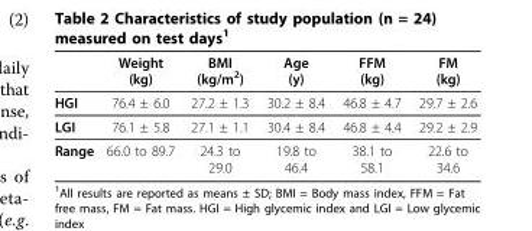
<table><thead><tr><td></td><td>Weight (kg)</td><td>BMI (kg/m<sup>2</sup>)</td><td>Age (y)</td><td>FFM (kg)</td><td>FM (kg)</td></tr></thead><tbody><tr><td>HGI</td><td>76.4 ± 6.0</td><td>27.2 ± 1.3</td><td>30.2 ± 8.4</td><td>46.8 ± 4.7</td><td>29.7 ± 2.6</td></tr><tr><td>LGI</td><td>76.1 ± 5.8</td><td>27.1 ± 1.1</td><td>30.4 ± 8.4</td><td>46.8 ± 4.4</td><td>29.2 ± 2.9</td></tr><tr><td>Range</td><td>66.0 to 89.7</td><td>24.3 to 29.0</td><td>19.8 to 46.4</td><td>38.1 to 58.1</td><td>22.6 to 34.6</td></tr></tbody></table>